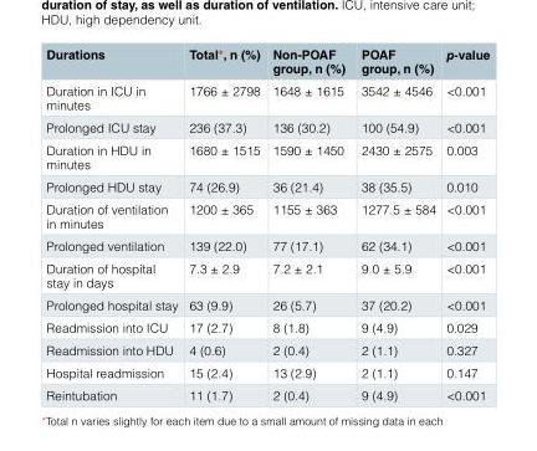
<table><thead><tr><td>Durations</td><td>Total*, n (%)</td><td>Non-POAF group, n (%)</td><td>POAF group, n (%)</td><td>p-value</td></tr></thead><tbody><tr><td>Duration in ICU in minutes</td><td>1766 ± 2798</td><td>1648 ± 1615</td><td>3542 ± 4546</td><td>&lt;0.001</td></tr><tr><td>Prolonged ICU stay</td><td>236 (37.3)</td><td>136 (30.2)</td><td>100 (54.9)</td><td>&lt;0.001</td></tr><tr><td>Duration in HDU in minutes</td><td>1680 ± 1515</td><td>1590 ± 1450</td><td>2430 ± 2575</td><td>0.003</td></tr><tr><td>Prolonged HDU stay</td><td>74 (26.9)</td><td>36 (21.4)</td><td>38 (35.5)</td><td>0.010</td></tr><tr><td>Duration of ventilation in minutes</td><td>1200 ± 365</td><td>1155 ± 363</td><td>1277.5 ± 584</td><td>&lt;0.001</td></tr><tr><td>Prolonged ventilation</td><td>139 (22.0)</td><td>77 (17.1)</td><td>62 (34.1)</td><td>&lt;0.001</td></tr><tr><td>Duration of hospital stay in days</td><td>7.3 ± 2.9</td><td>7.2 ± 2.1</td><td>9.0 ± 5.9</td><td>&lt;0.001</td></tr><tr><td>Prolonged hospital stay</td><td>63 (9.9)</td><td>26 (5.7)</td><td>37 (20.2)</td><td>&lt;0.001</td></tr><tr><td>Readmission into ICU</td><td>17 (2.7)</td><td>8 (1.8)</td><td>9 (4.9)</td><td>0.029</td></tr><tr><td>Readmission into HDU</td><td>4 (0.6)</td><td>2 (0.4)</td><td>2 (1.1)</td><td>0.327</td></tr><tr><td>Hospital readmission</td><td>15 (2.4)</td><td>13 (2.9)</td><td>2 (1.1)</td><td>0.147</td></tr><tr><td>Reintubation</td><td>11 (1.7)</td><td>2 (0.4)</td><td>9 (4.9)</td><td>&lt;0.001</td></tr></tbody></table>